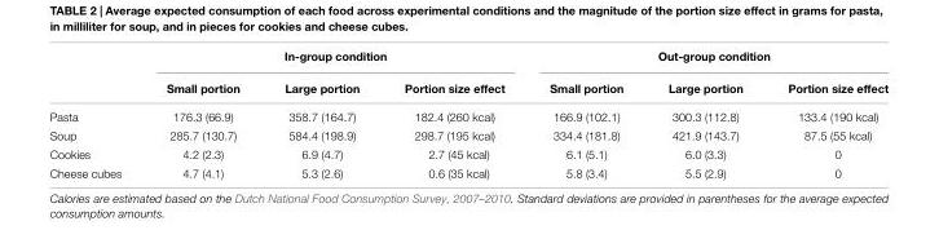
<table><thead><tr><td rowspan="2"></td><td colspan="3">In-group condition</td><td colspan="3">Out-group condition</td></tr><tr><td>Small portion</td><td>Large portion</td><td>Portion size effect</td><td>Small portion</td><td>Large portion</td><td>Portion size effect</td></tr></thead><tbody><tr><td>Pasta</td><td>176.3 (66.9)</td><td>358.7 (164.7)</td><td>182.4 (260 kcal)</td><td>166.9 (102.1)</td><td>300.3 (112.8)</td><td>133.4 (190 kcal)</td></tr><tr><td>Soup</td><td>285.7 (130.7)</td><td>584.4 (198.9)</td><td>298.7 (195 kcal)</td><td>334.4 (181.8)</td><td>421.9 (143.7)</td><td>87.5 (55 kcal)</td></tr><tr><td>Cookies</td><td>4.2 (2.3)</td><td>6.9 (4.7)</td><td>2.7 (45 kcal)</td><td>6.1 (5.1)</td><td>6.0 (3.3)</td><td>0</td></tr><tr><td>Cheese cubes</td><td>4.7 (4.1)</td><td>5.3 (2.6)</td><td>0.6 (35 kcal)</td><td>5.8 (3.4)</td><td>5.5 (2.9)</td><td>0</td></tr></tbody></table>